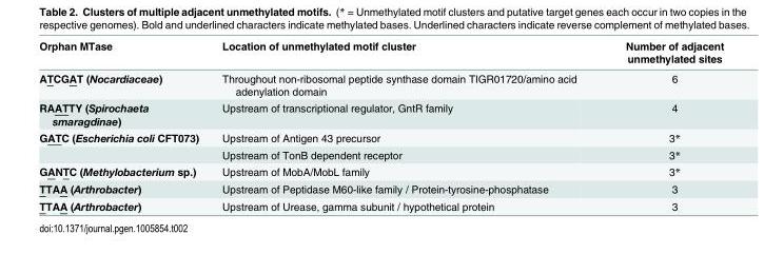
<table><thead><tr><td>Orphan MTase</td><td>Location of unmethylated motif cluster</td><td>Number of adjacent unmethylated sites</td></tr></thead><tbody><tr><td>ATCGAT (Nocardiaceae)</td><td>Throughout non-ribosomal peptide synthase domain TIGR01720/amino acid adenylation domain</td><td>6</td></tr><tr><td>RAATTY (Spirochaeta smaragdinae)</td><td>Upstream of transcriptional regulator, GntR family</td><td>4</td></tr><tr><td rowspan="2">GATC (Escherichia coli CFT073)</td><td>Upstream of Antigen 43 precursor</td><td>3*</td></tr><tr><td>Upstream of TonB dependent receptor</td><td>3*</td></tr><tr><td>GANTC (Methylobacterium sp.)</td><td>Upstream of MobA/MobL family</td><td>3*</td></tr><tr><td>TTAA (Arthrobacter)</td><td>Upstream of Peptidase M60-like family / Protein-tyrosine-phosphatase</td><td>3</td></tr><tr><td>TTAA (Arthrobacter)</td><td>Upstream of Urease, gamma subunit / hypothetical protein</td><td>3</td></tr></tbody></table>